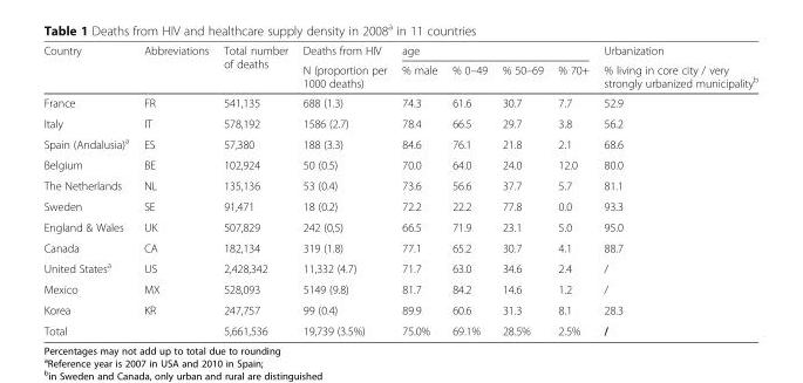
<table><thead><tr><td rowspan="2">Country</td><td rowspan="2">Abbreviations</td><td rowspan="2">Total number of deaths</td><td rowspan="2">Deaths from HIV N (proportion per 1000 deaths)</td><td colspan="4">age</td><td rowspan="2">Urbanization % living in core city / very strongly urbanized municipality<sup>b</sup></td></tr><tr><td>% male</td><td>% 0–49</td><td>% 50–69</td><td>% 70+</td></tr></thead><tbody><tr><td>France</td><td>FR</td><td>541,135</td><td>688 (1.3)</td><td>74.3</td><td>61.6</td><td>30.7</td><td>7.7</td><td>52.9</td></tr><tr><td>Italy</td><td>IT</td><td>578,192</td><td>1586 (2.7)</td><td>78.4</td><td>66.5</td><td>29.7</td><td>3.8</td><td>56.2</td></tr><tr><td>Spain (Andalusia)<sup>a</sup></td><td>ES</td><td>57,380</td><td>188 (3.3)</td><td>84.6</td><td>76.1</td><td>21.8</td><td>2.1</td><td>68.6</td></tr><tr><td>Belgium</td><td>BE</td><td>102,924</td><td>50 (0.5)</td><td>70.0</td><td>64.0</td><td>24.0</td><td>12.0</td><td>80.0</td></tr><tr><td>The Netherlands</td><td>NL</td><td>135,136</td><td>53 (0.4)</td><td>73.6</td><td>56.6</td><td>37.7</td><td>5.7</td><td>81.1</td></tr><tr><td>Sweden</td><td>SE</td><td>91,471</td><td>18 (0.2)</td><td>72.2</td><td>22.2</td><td>77.8</td><td>0.0</td><td>93.3</td></tr><tr><td>England &amp; Wales</td><td>UK</td><td>507,829</td><td>242 (0,5)</td><td>66.5</td><td>71.9</td><td>23.1</td><td>5.0</td><td>95.0</td></tr><tr><td>Canada</td><td>CA</td><td>182,134</td><td>319 (1.8)</td><td>77.1</td><td>65.2</td><td>30.7</td><td>4.1</td><td>88.7</td></tr><tr><td>United States<sup>a</sup></td><td>US</td><td>2,428,342</td><td>11,332 (4.7)</td><td>71.7</td><td>63.0</td><td>34.6</td><td>2.4</td><td>/</td></tr><tr><td>Mexico</td><td>MX</td><td>528,093</td><td>5149 (9.8)</td><td>81.7</td><td>84.2</td><td>14.6</td><td>1.2</td><td>/</td></tr><tr><td>Korea</td><td>KR</td><td>247,757</td><td>99 (0.4)</td><td>89.9</td><td>60.6</td><td>31.3</td><td>8.1</td><td>28.3</td></tr><tr><td>Total</td><td></td><td>5,661,536</td><td>19,739 (3.5%)</td><td>75.0%</td><td>69.1%</td><td>28.5%</td><td>2.5%</td><td>/</td></tr></tbody></table>